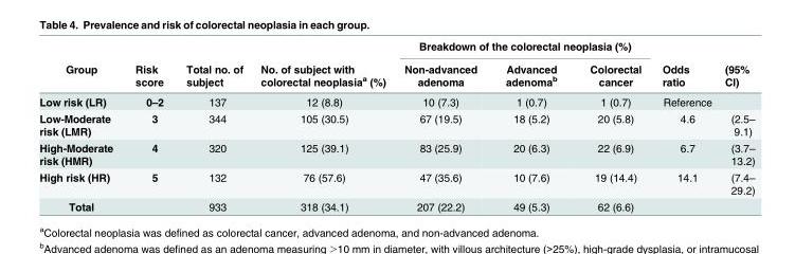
<table><thead><tr><td rowspan="2">Group</td><td rowspan="2">Risk score</td><td rowspan="2">Total no. of subject</td><td rowspan="2">No. of subject with colorectal neoplasia<sup>a</sup> (%)</td><td colspan="3">Breakdown of the colorectal neoplasia (%)</td><td rowspan="2">Odds ratio</td><td rowspan="2">(95% CI)</td></tr><tr><td>Non-advanced adenoma</td><td>Advanced adenoma<sup>b</sup></td><td>Colorectal cancer</td></tr></thead><tbody><tr><td>Low risk (LR)</td><td>0–2</td><td>137</td><td>12 (8.8)</td><td>10 (7.3)</td><td>1 (0.7)</td><td>1 (0.7)</td><td>Reference</td><td></td></tr><tr><td>Low-Moderate risk (LMR)</td><td>3</td><td>344</td><td>105 (30.5)</td><td>67 (19.5)</td><td>18 (5.2)</td><td>20 (5.8)</td><td>4.6</td><td>(2.5– 9.1)</td></tr><tr><td>High-Moderate risk (HMR)</td><td>4</td><td>320</td><td>125 (39.1)</td><td>83 (25.9)</td><td>20 (6.3)</td><td>22 (6.9)</td><td>6.7</td><td>(3.7– 13.2)</td></tr><tr><td>High risk (HR)</td><td>5</td><td>132</td><td>76 (57.6)</td><td>47 (35.6)</td><td>10 (7.6)</td><td>19 (14.4)</td><td>14.1</td><td>(7.4– 29.2)</td></tr><tr><td>Total</td><td></td><td>933</td><td>318 (34.1)</td><td>207 (22.2)</td><td>49 (5.3)</td><td>62 (6.6)</td><td></td><td></td></tr></tbody></table>